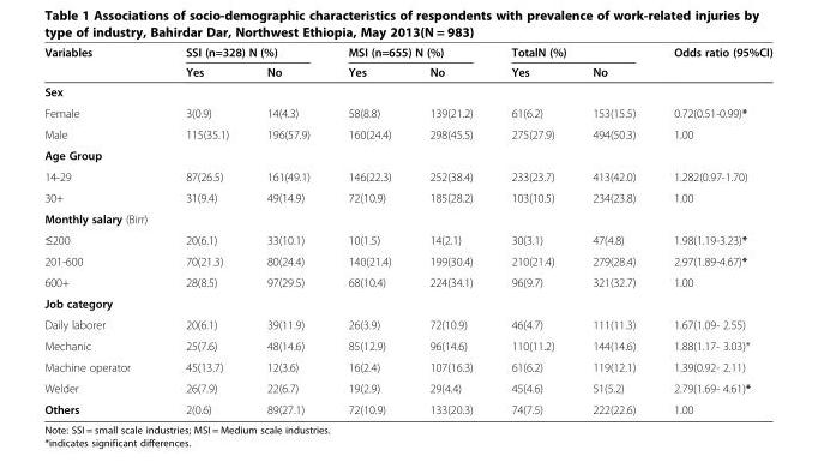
<table><thead><tr><td rowspan="2">Variables</td><td colspan="2">SSI (n=328) N (%)</td><td colspan="2">MSI (n=655) N (%)</td><td colspan="2">TotalN (%)</td><td rowspan="2">Odds ratio (95%CI)</td></tr><tr><td>Yes</td><td>No</td><td>Yes</td><td>No</td><td>Yes</td><td>No</td></tr></thead><tbody><tr><td colspan="8">Sex</td></tr><tr><td>Female</td><td>3(0.9)</td><td>14(4.3)</td><td>58(8.8)</td><td>139(21.2)</td><td>61(6.2)</td><td>153(15.5)</td><td>0.72(0.51-0.99)*</td></tr><tr><td>Male</td><td>115(35.1)</td><td>196(57.9)</td><td>160(24.4)</td><td>298(45.5)</td><td>275(27.9)</td><td>494(50.3)</td><td>1.00</td></tr><tr><td colspan="8">Age Group</td></tr><tr><td>14-29</td><td>87(26.5)</td><td>161(49.1)</td><td>146(22.3)</td><td>252(38.4)</td><td>233(23.7)</td><td>413(42.0)</td><td>1.282(0.97-1.70)</td></tr><tr><td>30+</td><td>31(9.4)</td><td>49(14.9)</td><td>72(10.9)</td><td>185(28.2)</td><td>103(10.5)</td><td>234(23.8)</td><td>1.00</td></tr><tr><td colspan="8">Monthly salary (Birr)</td></tr><tr><td>≤200</td><td>20(6.1)</td><td>33(10.1)</td><td>10(1.5)</td><td>14(2.1)</td><td>30(3.1)</td><td>47(4.8)</td><td>1.98(1.19-3.23)*</td></tr><tr><td>201-600</td><td>70(21.3)</td><td>80(24.4)</td><td>140(21.4)</td><td>199(30.4)</td><td>210(21.4)</td><td>279(28.4)</td><td>2.97(1.89-4.67)*</td></tr><tr><td>600+</td><td>28(8.5)</td><td>97(29.5)</td><td>68(10.4)</td><td>224(34.1)</td><td>96(9.7)</td><td>321(32.7)</td><td>1.00</td></tr><tr><td colspan="8">Job category</td></tr><tr><td>Daily laborer</td><td>20(6.1)</td><td>39(11.9)</td><td>26(3.9)</td><td>72(10.9)</td><td>46(4.7)</td><td>111(11.3)</td><td>1.67(1.09- 2.55)</td></tr><tr><td>Mechanic</td><td>25(7.6)</td><td>48(14.6)</td><td>85(12.9)</td><td>96(14.6)</td><td>110(11.2)</td><td>144(14.6)</td><td>1.88(1.17- 3.03)*</td></tr><tr><td>Machine operator</td><td>45(13.7)</td><td>12(3.6)</td><td>16(2.4)</td><td>107(16.3)</td><td>61(6.2)</td><td>119(12.1)</td><td>1.39(0.92- 2.11)</td></tr><tr><td>Welder</td><td>26(7.9)</td><td>22(6.7)</td><td>19(2.9)</td><td>29(4.4)</td><td>45(4.6)</td><td>51(5.2)</td><td>2.79(1.69- 4.61)*</td></tr><tr><td>Others</td><td>2(0.6)</td><td>89(27.1)</td><td>72(10.9)</td><td>133(20.3)</td><td>74(7.5)</td><td>222(22.6)</td><td>1.00</td></tr></tbody></table>